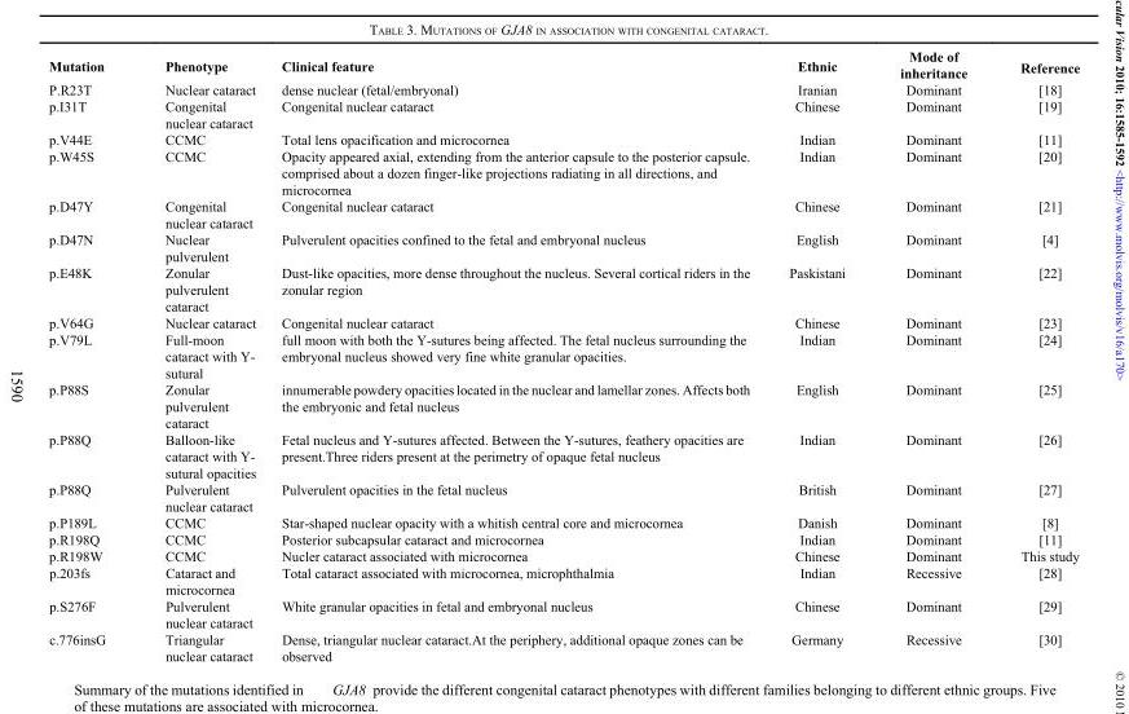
<table><thead><tr><td>Mutation</td><td>Phenotype</td><td>Clinical feature</td><td>Ethnic</td><td>Mode of inheritance</td><td>Reference</td></tr></thead><tbody><tr><td>P.R23T</td><td>Nuclear cataract</td><td>dense nuclear (fetal/embryonal)</td><td>Iranian</td><td>Dominant</td><td>[18]</td></tr><tr><td>p.I31T</td><td>Congenital nuclear cataract</td><td>Congenital nuclear cataract</td><td>Chinese</td><td>Dominant</td><td>[19]</td></tr><tr><td>p.V44E</td><td>CCMC</td><td>Total lens opacification and microcornea</td><td>Indian</td><td>Dominant</td><td>[11]</td></tr><tr><td>p.W45S</td><td>CCMC</td><td>Opacity appeared axial, extending from the anterior capsule to the posterior capsule. comprised about a dozen finger-like projections radiating in all directions, and microcornea</td><td>Indian</td><td>Dominant</td><td>[20]</td></tr><tr><td>p.D47Y</td><td>Congenital nuclear cataract</td><td>Congenital nuclear cataract</td><td>Chinese</td><td>Dominant</td><td>[21]</td></tr><tr><td>p.D47N</td><td>Nuclear pulverulent</td><td>Pulverulent opacities confined to the fetal and embryonal nucleus</td><td>English</td><td>Dominant</td><td>[4]</td></tr><tr><td>p.E48K</td><td>Zonular pulverulent cataract</td><td>Dust-like opacities, more dense throughout the nucleus. Several cortical riders in the zonular region</td><td>Paskistani</td><td>Dominant</td><td>[22]</td></tr><tr><td>p.V64G</td><td>Nuclear cataract</td><td>Congenital nuclear cataract</td><td>Chinese</td><td>Dominant</td><td>[23]</td></tr><tr><td>p.V79L</td><td>Full-moon cataract with Y- sutural</td><td>full moon with both the Y-sutures being affected. The fetal nucleus surrounding the embryonal nucleus showed very fine white granular opacities.</td><td>Indian</td><td>Dominant</td><td>[24]</td></tr><tr><td>p.P88S</td><td>Zonular pulverulent cataract</td><td>innumerable powdery opacities located in the nuclear and lamellar zones. Affects both the embryonic and fetal nucleus</td><td>English</td><td>Dominant</td><td>[25]</td></tr><tr><td>p.P88Q</td><td>Balloon-like cataract with Y- sutural opacities</td><td>Fetal nucleus and Y-sutures affected. Between the Y-sutures, feathery opacities are present.Three riders present at the perimetry of opaque fetal nucleus</td><td>Indian</td><td>Dominant</td><td>[26]</td></tr><tr><td>p.P88Q</td><td>Pulverulent nuclear cataract</td><td>Pulverulent opacities in the fetal nucleus</td><td>British</td><td>Dominant</td><td>[27]</td></tr><tr><td>p.P189L</td><td>CCMC</td><td>Star-shaped nuclear opacity with a whitish central core and microcornea</td><td>Danish</td><td>Dominant</td><td>[8]</td></tr><tr><td>p.R198Q</td><td>CCMC</td><td>Posterior subcapsular cataract and microcornea</td><td>Indian</td><td>Dominant</td><td>[11]</td></tr><tr><td>p.R198W</td><td>CCMC</td><td>Nucler cataract associated with microcornea</td><td>Chinese</td><td>Dominant</td><td>This study</td></tr><tr><td>p.203fs</td><td>Cataract and microcornea</td><td>Total cataract associated with microcornea, microphthalmia</td><td>Indian</td><td>Recessive</td><td>[28]</td></tr><tr><td>p.S276F</td><td>Pulverulent nuclear cataract</td><td>White granular opacities in fetal and embryonal nucleus</td><td>Chinese</td><td>Dominant</td><td>[29]</td></tr><tr><td>c.776insG</td><td>Triangular nuclear cataract</td><td>Dense, triangular nuclear cataract.At the periphery, additional opaque zones can be observed</td><td>Germany</td><td>Recessive</td><td>[30]</td></tr></tbody></table>